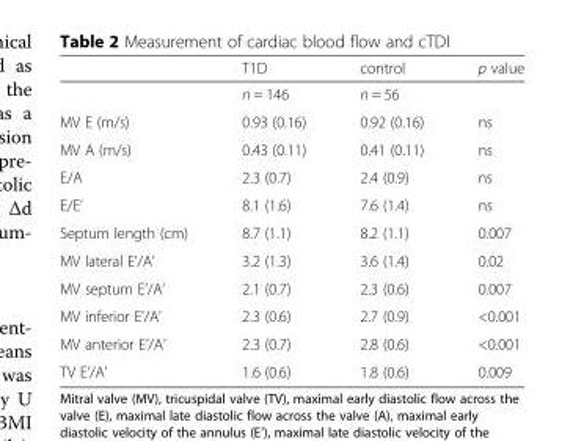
<table><thead><tr><td></td><td>T1D</td><td>control</td><td>p value</td></tr></thead><tbody><tr><td></td><td>n = 146</td><td>n = 56</td><td></td></tr><tr><td>MV E (m/s)</td><td>0.93 (0.16)</td><td>0.92 (0.16)</td><td>ns</td></tr><tr><td>MV A (m/s)</td><td>0.43 (0.11)</td><td>0.41 (0.11)</td><td>ns</td></tr><tr><td>E/A</td><td>2.3 (0.7)</td><td>2.4 (0.9)</td><td>ns</td></tr><tr><td>E/E’</td><td>8.1 (1.6)</td><td>7.6 (1.4)</td><td>ns</td></tr><tr><td>Septum length (cm)</td><td>8.7 (1.1)</td><td>8.2 (1.1)</td><td>0.007</td></tr><tr><td>MV lateral E’/A’</td><td>3.2 (1.3)</td><td>3.6 (1.4)</td><td>0.02</td></tr><tr><td>MV septum E’/A’</td><td>2.1 (0.7)</td><td>2.3 (0.6)</td><td>0.007</td></tr><tr><td>MV inferior E’/A’</td><td>2.3 (0.6)</td><td>2.7 (0.9)</td><td>&lt;0.001</td></tr><tr><td>MV anterior E’/A’</td><td>2.3 (0.7)</td><td>2.8 (0.6)</td><td>&lt;0.001</td></tr><tr><td>TV E’/A’</td><td>1.6 (0.6)</td><td>1.8 (0.6)</td><td>0.009</td></tr></tbody></table>